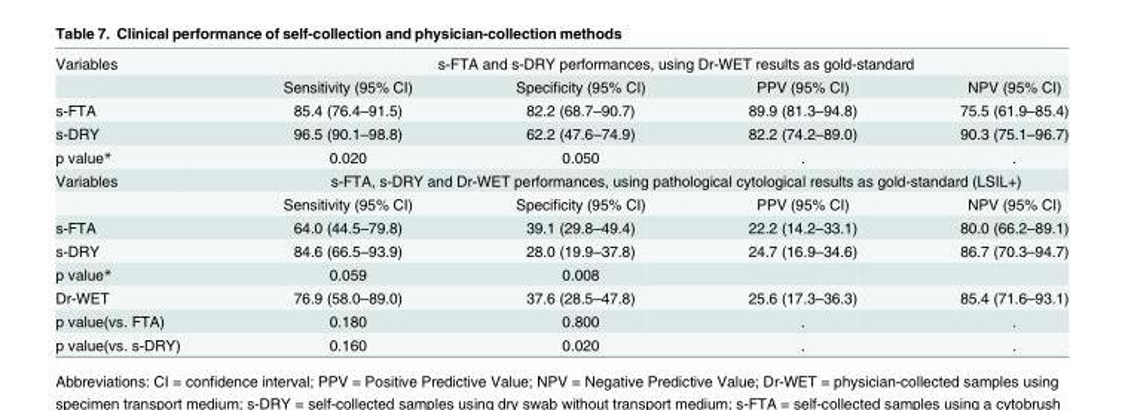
<table><tbody><tr><td rowspan="2">Variables</td><td colspan="4">s-FTA and s-DRY performances, using Dr-WET results as gold-standard</td></tr><tr><td>Sensitivity (95% CI)</td><td>Specificity (95% CI)</td><td>PPV (95% CI)</td><td>NPV (95% CI)</td></tr><tr><td>s-FTA</td><td>85.4 (76.4–91.5)</td><td>82.2 (68.7–90.7)</td><td>89.9 (81.3–94.8)</td><td>75.5 (61.9–85.4)</td></tr><tr><td>s-DRY</td><td>96.5 (90.1–98.8)</td><td>62.2 (47.6–74.9)</td><td>82.2 (74.2–89.0)</td><td>90.3 (75.1–96.7)</td></tr><tr><td>p value*</td><td>0.020</td><td>0.050</td><td>.</td><td>.</td></tr><tr><td rowspan="2">Variables</td><td colspan="4">s-FTA, s-DRY and Dr-WET performances, using pathological cytological results as gold-standard (LSIL+)</td></tr><tr><td>Sensitivity (95% CI)</td><td>Specificity (95% CI)</td><td>PPV (95% CI)</td><td>NPV (95% CI)</td></tr><tr><td>s-FTA</td><td>64.0 (44.5–79.8)</td><td>39.1 (29.8–49.4)</td><td>22.2 (14.2–33.1)</td><td>80.0 (66.2–89.1)</td></tr><tr><td>s-DRY</td><td>84.6 (66.5–93.9)</td><td>28.0 (19.9–37.8)</td><td>24.7 (16.9–34.6)</td><td>86.7 (70.3–94.7)</td></tr><tr><td>p value*</td><td>0.059</td><td>0.008</td><td></td><td></td></tr><tr><td>Dr-WET</td><td>76.9 (58.0–89.0)</td><td>37.6 (28.5–47.8)</td><td>25.6 (17.3–36.3)</td><td>85.4 (71.6–93.1)</td></tr><tr><td>p value(vs. FTA)</td><td>0.180</td><td>0.800</td><td>.</td><td>.</td></tr><tr><td>p value(vs. s-DRY)</td><td>0.160</td><td>0.020</td><td>.</td><td>.</td></tr></tbody></table>